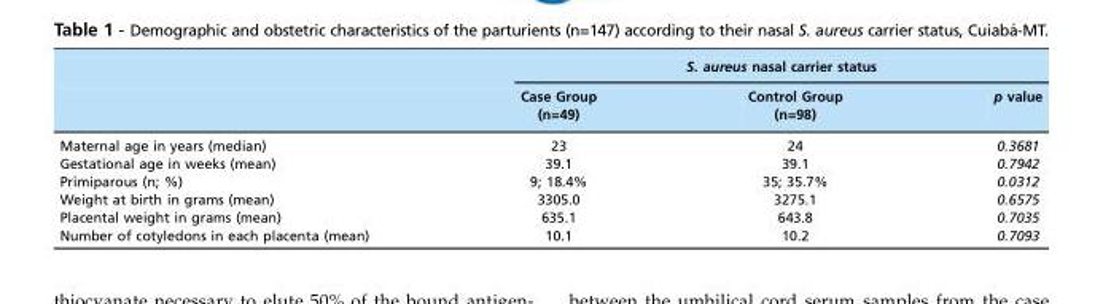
<table><thead><tr><td rowspan="2"></td><td colspan="3">S. aureus nasal carrier status</td></tr><tr><td>Case Group (n=49)</td><td>Control Group (n=98)</td><td>p value</td></tr></thead><tbody><tr><td>Maternal age in years (median)</td><td>23</td><td>24</td><td>0.3681</td></tr><tr><td>Gestational age in weeks (mean)</td><td>39.1</td><td>39.1</td><td>0.7942</td></tr><tr><td>Primiparous (n; %)</td><td>9; 18.4%</td><td>35; 35.7%</td><td>0.0312</td></tr><tr><td>Weight at birth in grams (mean)</td><td>3305.0</td><td>3275.1</td><td>0.6575</td></tr><tr><td>Placental weight in grams (mean)</td><td>635.1</td><td>643.8</td><td>0.7035</td></tr><tr><td>Number of cotyledons in each placenta (mean)</td><td>10.1</td><td>10.2</td><td>0.7093</td></tr></tbody></table>